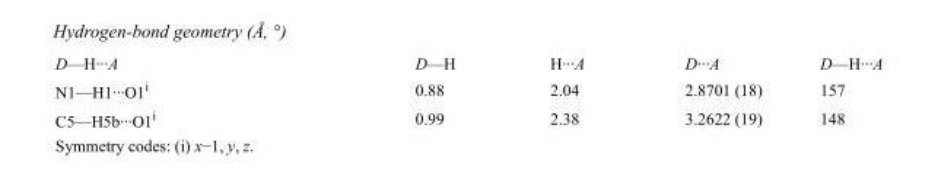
<table><tbody><tr><td>D—H···A</td><td>D—H</td><td>H···A</td><td>D···A</td><td>D—H···A</td></tr><tr><td>N1—H1···O1<sup>i</sup></td><td>0.88</td><td>2.04</td><td>2.8701 (18)</td><td>157</td></tr><tr><td>C5—H5b···O1<sup>i</sup></td><td>0.99</td><td>2.38</td><td>3.2622 (19)</td><td>148</td></tr></tbody></table>